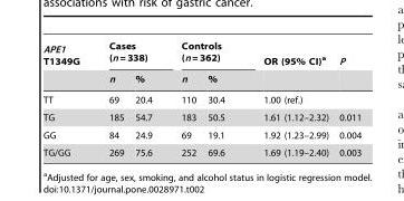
<table><thead><tr><td rowspan="2">APE1 T1349G</td><td colspan="2">Cases (n = 338)</td><td colspan="2">Controls (n = 362)</td><td rowspan="2">OR (95% CI)<sup>a</sup></td><td rowspan="2">P</td></tr><tr><td>n</td><td>%</td><td>n</td><td>%</td></tr></thead><tbody><tr><td>TT</td><td>69</td><td>20.4</td><td>110</td><td>30.4</td><td>1.00 (ref.)</td><td></td></tr><tr><td>TG</td><td>185</td><td>54.7</td><td>183</td><td>50.5</td><td>1.61 (1.12–2.32)</td><td>0.011</td></tr><tr><td>GG</td><td>84</td><td>24.9</td><td>69</td><td>19.1</td><td>1.92 (1.23–2.99)</td><td>0.004</td></tr><tr><td>TG/GG</td><td>269</td><td>75.6</td><td>252</td><td>69.6</td><td>1.69 (1.19–2.40)</td><td>0.003</td></tr></tbody></table>